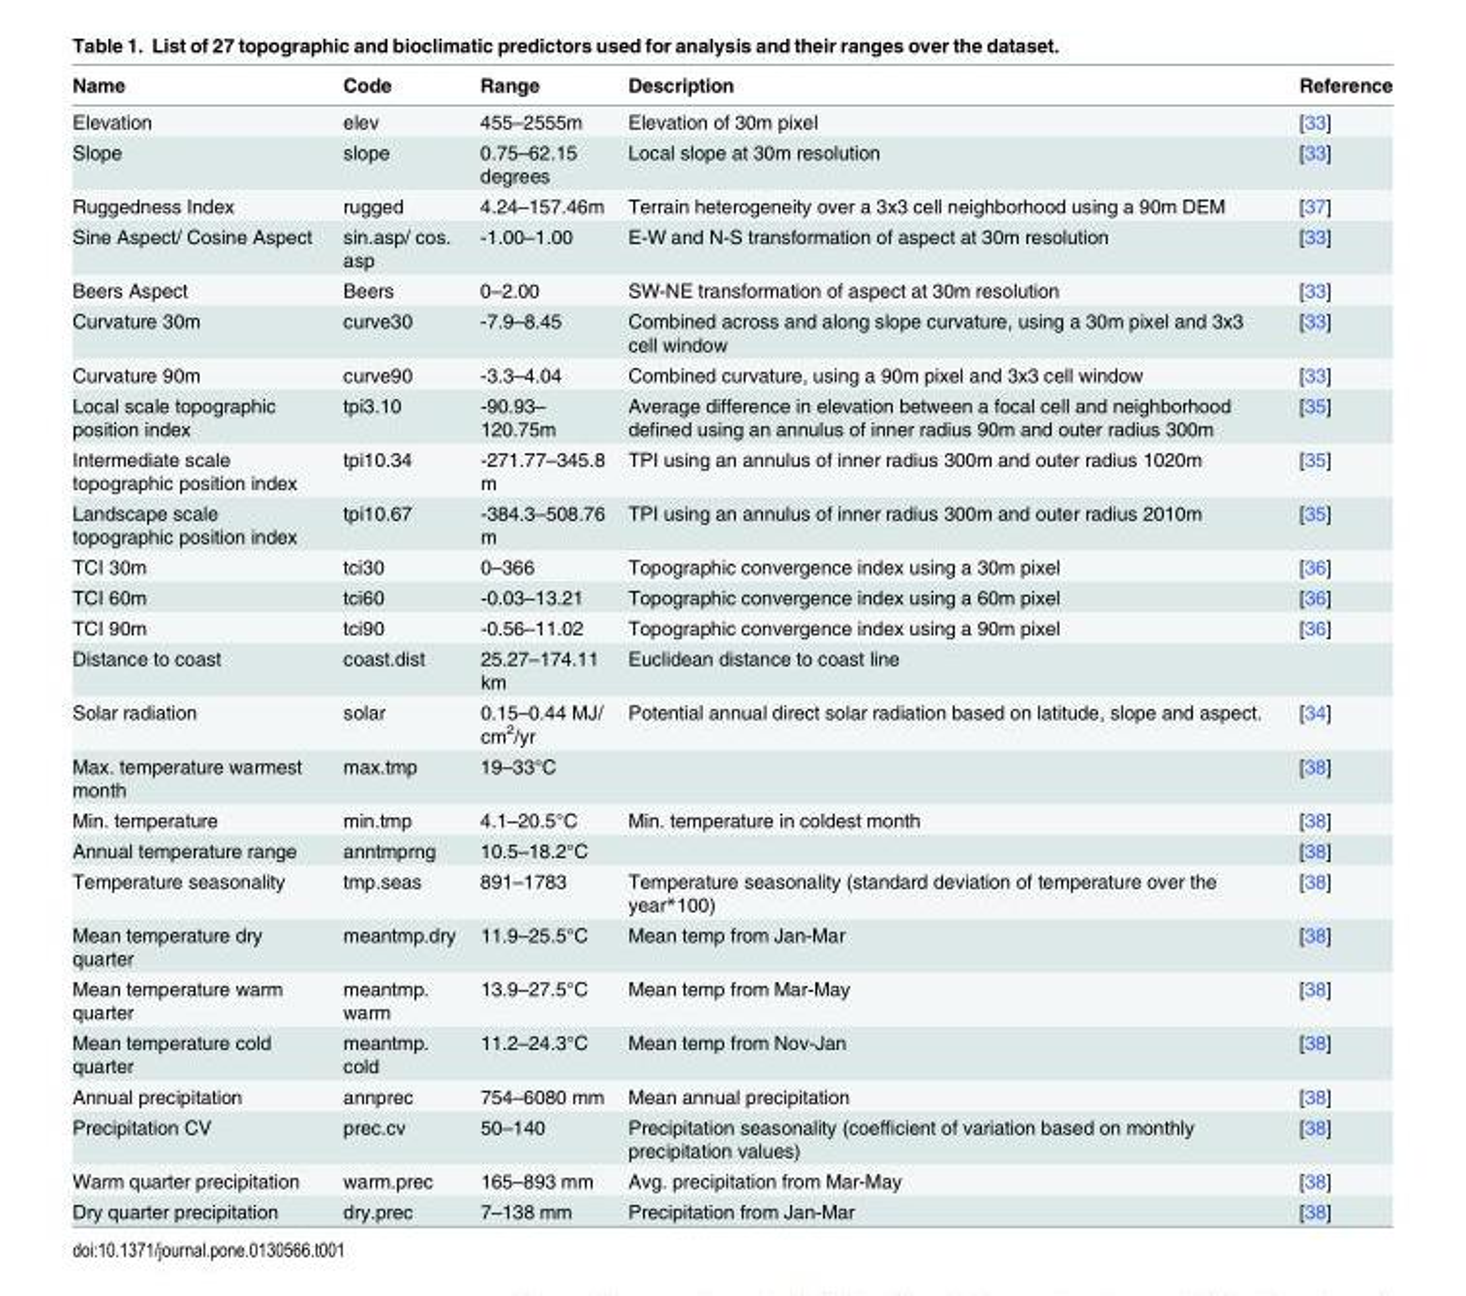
<table><thead><tr><td>Name</td><td>Code</td><td>Range</td><td>Description</td><td>Reference</td></tr></thead><tbody><tr><td>Elevation</td><td>elev</td><td>455–2555m</td><td>Elevation of 30m pixel</td><td>[33]</td></tr><tr><td>Slope</td><td>slope</td><td>0.75–62.15 degrees</td><td>Local slope at 30m resolution</td><td>[33]</td></tr><tr><td>Ruggedness Index</td><td>rugged</td><td>4.24–157.46m</td><td>Terrain heterogeneity over a 3x3 cell neighborhood using a 90m DEM</td><td>[37]</td></tr><tr><td>Sine Aspect/ Cosine Aspect</td><td>sin.asp/ cos. asp</td><td>-1.00–1.00</td><td>E-W and N-S transformation of aspect at 30m resolution</td><td>[33]</td></tr><tr><td>Beers Aspect</td><td>Beers</td><td>0–2.00</td><td>SW-NE transformation of aspect at 30m resolution</td><td>[33]</td></tr><tr><td>Curvature 30m</td><td>curve30</td><td>-7.9–8.45</td><td>Combined across and along slope curvature, using a 30m pixel and 3x3 cell window</td><td>[33]</td></tr><tr><td>Curvature 90m</td><td>curve90</td><td>-3.3–4.04</td><td>Combined curvature, using a 90m pixel and 3x3 cell window</td><td>[33]</td></tr><tr><td>Local scale topographic position index</td><td>tpi3.10</td><td>-90.93– 120.75m</td><td>Average difference in elevation between a focal cell and neighborhood defined using an annulus of inner radius 90m and outer radius 300m</td><td>[35]</td></tr><tr><td>Intermediate scale topographic position index</td><td>tpi10.34</td><td>-271.77–345.8 m</td><td>TPI using an annulus of inner radius 300m and outer radius 1020m</td><td>[35]</td></tr><tr><td>Landscape scale topographic position index</td><td>tpi10.67</td><td>-384.3–508.76 m</td><td>TPI using an annulus of inner radius 300m and outer radius 2010m</td><td>[35]</td></tr><tr><td>TCI 30m</td><td>tci30</td><td>0–366</td><td>Topographic convergence index using a 30m pixel</td><td>[36]</td></tr><tr><td>TCI 60m</td><td>tci60</td><td>-0.03–13.21</td><td>Topographic convergence index using a 60m pixel</td><td>[36]</td></tr><tr><td>TCI 90m</td><td>tci90</td><td>-0.56–11.02</td><td>Topographic convergence index using a 90m pixel</td><td>[36]</td></tr><tr><td>Distance to coast</td><td>coast.dist</td><td>25.27–174.11 km</td><td>Euclidean distance to coast line</td><td></td></tr><tr><td>Solar radiation</td><td>solar</td><td>0.15–0.44 MJ/ cm<sup>2</sup>/yr</td><td>Potential annual direct solar radiation based on latitude, slope and aspect.</td><td>[34]</td></tr><tr><td>Max. temperature warmest month</td><td>max.tmp</td><td>19–33°C</td><td></td><td>[38]</td></tr><tr><td>Min. temperature</td><td>min.tmp</td><td>4.1–20.5°C</td><td>Min. temperature in coldest month</td><td>[38]</td></tr><tr><td>Annual temperature range</td><td>anntmprng</td><td>10.5–18.2°C</td><td></td><td>[38]</td></tr><tr><td>Temperature seasonality</td><td>tmp.seas</td><td>891–1783</td><td>Temperature seasonality (standard deviation of temperature over the year*100)</td><td>[38]</td></tr><tr><td>Mean temperature dry quarter</td><td>meantmp.dry</td><td>11.9–25.5°C</td><td>Mean temp from Jan-Mar</td><td>[38]</td></tr><tr><td>Mean temperature warm quarter</td><td>meantmp. warm</td><td>13.9–27.5°C</td><td>Mean temp from Mar-May</td><td>[38]</td></tr><tr><td>Mean temperature cold quarter</td><td>meantmp. cold</td><td>11.2–24.3°C</td><td>Mean temp from Nov-Jan</td><td>[38]</td></tr><tr><td>Annual precipitation</td><td>annprec</td><td>754–6080 mm</td><td>Mean annual precipitation</td><td>[38]</td></tr><tr><td>Precipitation CV</td><td>prec.cv</td><td>50–140</td><td>Precipitation seasonality (coefficient of variation based on monthly precipitation values)</td><td>[38]</td></tr><tr><td>Warm quarter precipitation</td><td>warm.prec</td><td>165–893 mm</td><td>Avg. precipitation from Mar-May</td><td>[38]</td></tr><tr><td>Dry quarter precipitation</td><td>dry.prec</td><td>7–138 mm</td><td>Precipitation from Jan-Mar</td><td>[38]</td></tr></tbody></table>